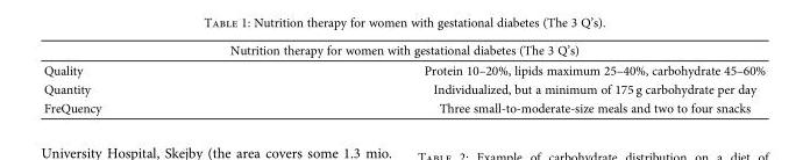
<table><thead><tr><td colspan="2">Nutrition therapy for women with gestational diabetes (The 3 Q’s)</td></tr><tr><td>Quality</td><td>Protein 10–20%, lipids maximum 25–40%, carbohydrate 45–60%</td></tr></thead><tbody><tr><td>Quantity</td><td>Individualized, but a minimum of 175 g carbohydrate per day</td></tr><tr><td>FreQuency</td><td>Three small-to-moderate-size meals and two to four snacks</td></tr></tbody></table>